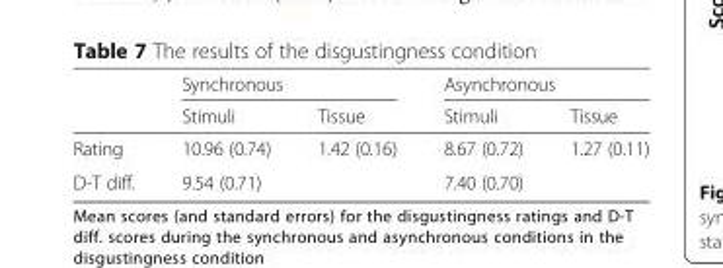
<table><thead><tr><td rowspan="2"></td><td colspan="2">Synchronous</td><td colspan="2">Asynchronous</td></tr><tr><td>Stimuli</td><td>Tissue</td><td>Stimuli</td><td>Tissue</td></tr></thead><tbody><tr><td>Rating</td><td>10.96 (0.74)</td><td>1.42 (0.16)</td><td>8.67 (0.72)</td><td>1.27 (0.11)</td></tr><tr><td>D-T diff.</td><td colspan="2">9.54 (0.71)</td><td colspan="2">7.40 (0.70)</td></tr></tbody></table>